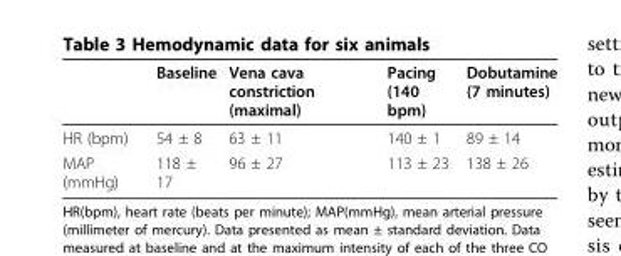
<table><thead><tr><td></td><td>Baseline</td><td>Vena cava constriction (maximal)</td><td>Pacing (140 bpm)</td><td>Dobutamine (7 minutes)</td></tr></thead><tbody><tr><td>HR (bpm)</td><td>54 ± 8</td><td>63 ± 11</td><td>140 ± 1</td><td>89 ± 14</td></tr><tr><td>MAP (mmHg)</td><td>118 ± 17</td><td>96 ± 27</td><td>113 ± 23</td><td>138 ± 26</td></tr></tbody></table>